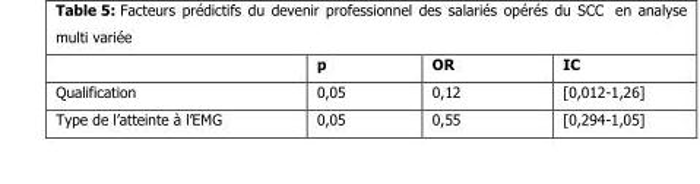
<table><thead><tr><td></td><td>p</td><td>OR</td><td>IC</td></tr></thead><tbody><tr><td>Qualification</td><td>0,05</td><td>0,12</td><td>[0,012-1,26]</td></tr><tr><td>Type de l’atteinte à l’EMG</td><td>0,05</td><td>0,55</td><td>[0,294-1,05]</td></tr></tbody></table>